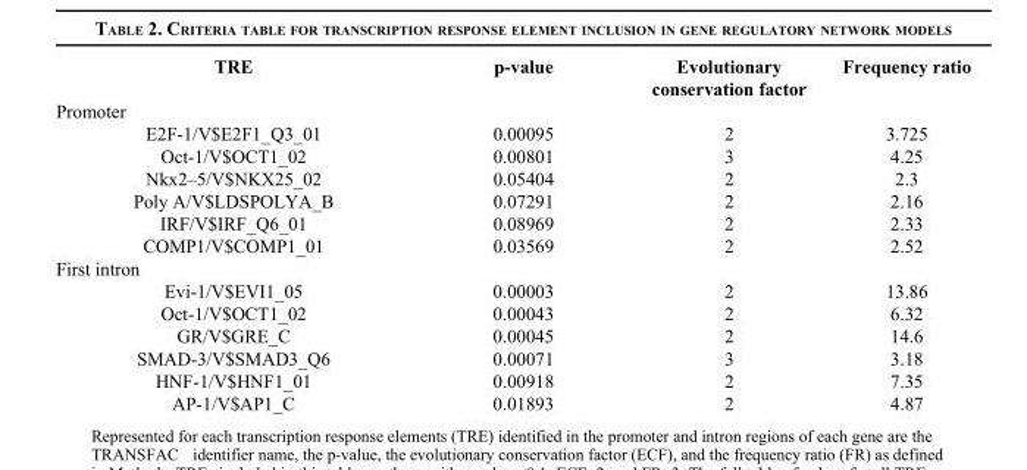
<table><thead><tr><td>TRE</td><td>p-value</td><td>Evolutionary conservation factor</td><td>Frequency ratio</td></tr></thead><tbody><tr><td colspan="4">Promoter</td></tr><tr><td>E2F-1/V$E2F1_Q3_01</td><td>0.00095</td><td>2</td><td>3.725</td></tr><tr><td>Oct-1/V$OCT1_02</td><td>0.00801</td><td>3</td><td>4.25</td></tr><tr><td>Nkx2–5/V$NKX25_02</td><td>0.05404</td><td>2</td><td>2.3</td></tr><tr><td>Poly A/V$LDSPOLYA_B</td><td>0.07291</td><td>2</td><td>2.16</td></tr><tr><td>IRF/V$IRF_Q6_01</td><td>0.08969</td><td>2</td><td>2.33</td></tr><tr><td>COMP1/V$COMP1_01</td><td>0.03569</td><td>2</td><td>2.52</td></tr><tr><td colspan="4">First intron</td></tr><tr><td>Evi-1/V$EVI1_05</td><td>0.00003</td><td>2</td><td>13.86</td></tr><tr><td>Oct-1/V$OCT1_02</td><td>0.00043</td><td>2</td><td>6.32</td></tr><tr><td>GR/V$GRE_C</td><td>0.00045</td><td>2</td><td>14.6</td></tr><tr><td>SMAD-3/V$SMAD3_Q6</td><td>0.00071</td><td>3</td><td>3.18</td></tr><tr><td>HNF-1/V$HNF1_01</td><td>0.00918</td><td>2</td><td>7.35</td></tr><tr><td>AP-1/V$AP1_C</td><td>0.01893</td><td>2</td><td>4.87</td></tr></tbody></table>